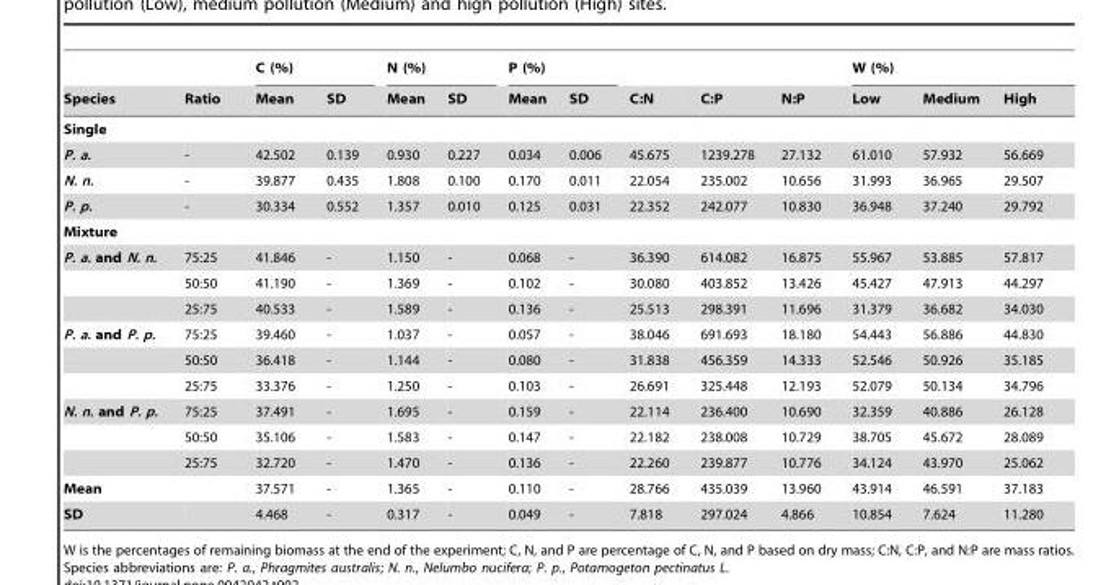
<table><thead><tr><td rowspan="2">Species</td><td rowspan="2">Ratio</td><td colspan="2">C (%)</td><td colspan="2">N (%)</td><td colspan="2">P (%)</td><td rowspan="2">C:N</td><td rowspan="2">C:P</td><td rowspan="2">N:P</td><td colspan="3">W (%)</td></tr><tr><td>Mean</td><td>SD</td><td>Mean</td><td>SD</td><td>Mean</td><td>SD</td><td>Low</td><td>Medium</td><td>High</td></tr></thead><tbody><tr><td colspan="14">Single</td></tr><tr><td>P. a.</td><td>-</td><td>42.502</td><td>0.139</td><td>0.930</td><td>0.227</td><td>0.034</td><td>0.006</td><td>45.675</td><td>1239.278</td><td>27.132</td><td>61.010</td><td>57.932</td><td>56.669</td></tr><tr><td>N. n.</td><td>-</td><td>39.877</td><td>0.435</td><td>1.808</td><td>0.100</td><td>0.170</td><td>0.011</td><td>22.054</td><td>235.002</td><td>10.656</td><td>31.993</td><td>36.965</td><td>29.507</td></tr><tr><td>P. p.</td><td>-</td><td>30.334</td><td>0.552</td><td>1.357</td><td>0.010</td><td>0.125</td><td>0.031</td><td>22.352</td><td>242.077</td><td>10.830</td><td>36.948</td><td>37.240</td><td>29.792</td></tr><tr><td colspan="14">Mixture</td></tr><tr><td rowspan="3">P. a. and N. n.</td><td>75:25</td><td>41.846</td><td>-</td><td>1.150</td><td>-</td><td>0.068</td><td>-</td><td>36.390</td><td>614.082</td><td>16.875</td><td>55.967</td><td>53.885</td><td>57.817</td></tr><tr><td>50:50</td><td>41.190</td><td>-</td><td>1.369</td><td>-</td><td>0.102</td><td>-</td><td>30.080</td><td>403.852</td><td>13.426</td><td>45.427</td><td>47.913</td><td>44.297</td></tr><tr><td>25:75</td><td>40.533</td><td>-</td><td>1.589</td><td>-</td><td>0.136</td><td>-</td><td>25.513</td><td>298.391</td><td>11.696</td><td>31.379</td><td>36.682</td><td>34.030</td></tr><tr><td rowspan="3">P. a. and P. p.</td><td>75:25</td><td>39.460</td><td>-</td><td>1.037</td><td>-</td><td>0.057</td><td>-</td><td>38.046</td><td>691.693</td><td>18.180</td><td>54.443</td><td>56.886</td><td>44.830</td></tr><tr><td>50:50</td><td>36.418</td><td>-</td><td>1.144</td><td>-</td><td>0.080</td><td>-</td><td>31.838</td><td>456.359</td><td>14.333</td><td>52.546</td><td>50.926</td><td>35.185</td></tr><tr><td>25:75</td><td>33.376</td><td>-</td><td>1.250</td><td>-</td><td>0.103</td><td>-</td><td>26.691</td><td>325.448</td><td>12.193</td><td>52.079</td><td>50.134</td><td>34.796</td></tr><tr><td rowspan="3">N. n. and P. p.</td><td>75:25</td><td>37.491</td><td>-</td><td>1.695</td><td>-</td><td>0.159</td><td>-</td><td>22.114</td><td>236.400</td><td>10.690</td><td>32.359</td><td>40.886</td><td>26.128</td></tr><tr><td>50:50</td><td>35.106</td><td>-</td><td>1.583</td><td>-</td><td>0.147</td><td>-</td><td>22.182</td><td>238.008</td><td>10.729</td><td>38.705</td><td>45.672</td><td>28.089</td></tr><tr><td>25:75</td><td>32.720</td><td>-</td><td>1.470</td><td>-</td><td>0.136</td><td>-</td><td>22.260</td><td>239.877</td><td>10.776</td><td>34.124</td><td>43.970</td><td>25.062</td></tr><tr><td>Mean</td><td></td><td>37.571</td><td>-</td><td>1.365</td><td>-</td><td>0.110</td><td>-</td><td>28.766</td><td>435.039</td><td>13.960</td><td>43.914</td><td>46.591</td><td>37.183</td></tr><tr><td>SD</td><td></td><td>4.468</td><td>-</td><td>0.317</td><td>-</td><td>0.049</td><td>-</td><td>7.818</td><td>297.024</td><td>4.866</td><td>10.854</td><td>7.624</td><td>11.280</td></tr></tbody></table>